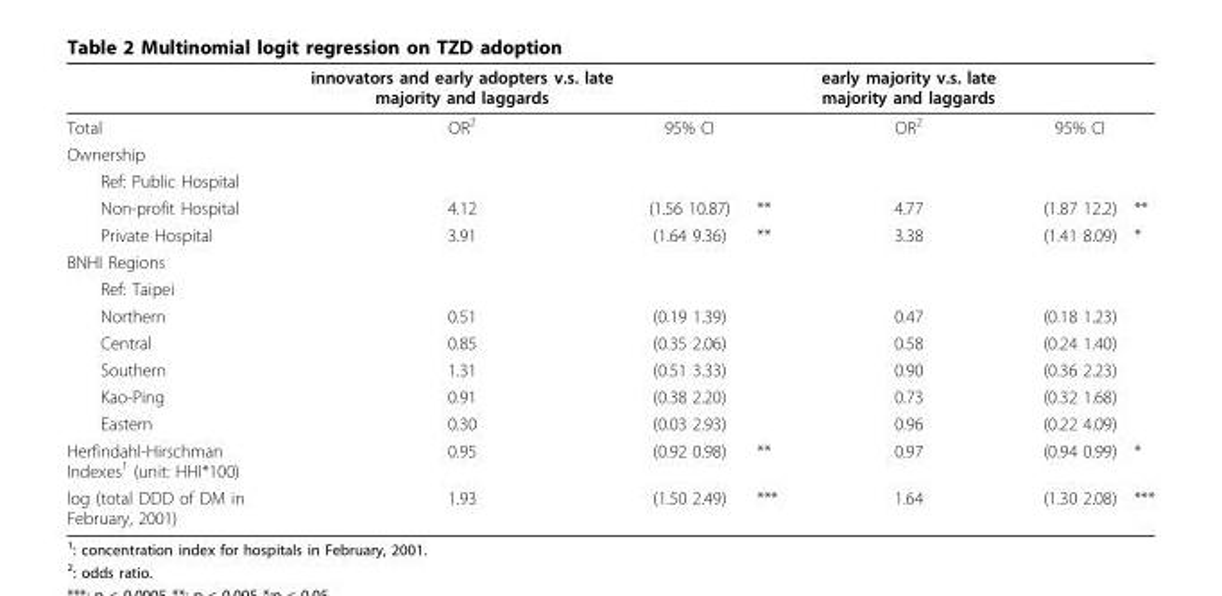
<table><thead><tr><td></td><td>innovators and early adopters v.s. late majority and laggards</td><td></td><td></td><td>early majority v.s. late majority and laggards</td><td></td><td></td></tr></thead><tbody><tr><td>Total</td><td>OR<sup>2</sup></td><td>95% CI</td><td></td><td>OR<sup>2</sup></td><td>95% CI</td><td></td></tr><tr><td colspan="7">Ownership</td></tr><tr><td colspan="7">Ref: Public Hospital</td></tr><tr><td>Non-profit Hospital</td><td>4.12</td><td>(1.56 10.87)</td><td>**</td><td>4.77</td><td>(1.87 12.2)</td><td>**</td></tr><tr><td>Private Hospital</td><td>3.91</td><td>(1.64 9.36)</td><td>**</td><td>3.38</td><td>(1.41 8.09)</td><td>*</td></tr><tr><td colspan="7">BNHI Regions</td></tr><tr><td colspan="7">Ref: Taipei</td></tr><tr><td>Northern</td><td>0.51</td><td>(0.19 1.39)</td><td></td><td>0.47</td><td>(0.18 1.23)</td><td></td></tr><tr><td>Central</td><td>0.85</td><td>(0.35 2.06)</td><td></td><td>0.58</td><td>(0.24 1.40)</td><td></td></tr><tr><td>Southern</td><td>1.31</td><td>(0.51 3.33)</td><td></td><td>0.90</td><td>(0.36 2.23)</td><td></td></tr><tr><td>Kao-Ping</td><td>0.91</td><td>(0.38 2.20)</td><td></td><td>0.73</td><td>(0.32 1.68)</td><td></td></tr><tr><td>Eastern</td><td>0.30</td><td>(0.03 2.93)</td><td></td><td>0.96</td><td>(0.22 4.09)</td><td></td></tr><tr><td>Herfindahl-Hirschman Indexes<sup>1</sup> (unit: HHI*100)</td><td>0.95</td><td>(0.92 0.98)</td><td>**</td><td>0.97</td><td>(0.94 0.99)</td><td>*</td></tr><tr><td>log (total DDD of DM in February, 2001)</td><td>1.93</td><td>(1.50 2.49)</td><td>***</td><td>1.64</td><td>(1.30 2.08)</td><td>***</td></tr></tbody></table>